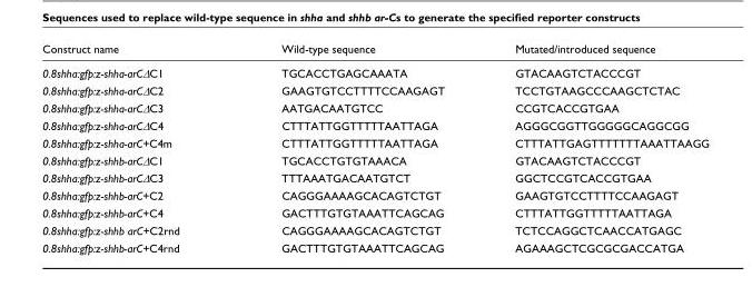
<table><thead><tr><td>Construct name</td><td>Wild-type sequence</td><td>Mutated/introduced sequence</td></tr></thead><tbody><tr><td>0.8shha:gfp:z-shha-arCΔC1</td><td>TGCACCTGAGCAAATA</td><td>GTACAAGTCTACCCGT</td></tr><tr><td>0.8shha:gfp:z-shha-arCΔC2</td><td>GAAGTGTCCTTTTCCAAGAGT</td><td>TCCTGTAAGCCCAAGCTCTAC</td></tr><tr><td>0.8shha:gfp:z-shha-arCΔC3</td><td>AATGACAATGTCC</td><td>CCGTCACCGTGAA</td></tr><tr><td>0.8shha:gfp:z-shha-arCΔC4</td><td>CTTTATTGGTTTTTAATTAGA</td><td>AGGGCGGTTGGGGGCAGGCGG</td></tr><tr><td>0.8shha:gfp:z-shha-arC+C4m</td><td>CTTTATTGGTTTTTAATTAGA</td><td>CTTTATTGAGTTTTTTTAAATTAAGG</td></tr><tr><td>0.8shha:gfp:z-shhb-arCΔC1</td><td>TGCACCTGTGTAAACA</td><td>GTACAAGTCTACCCGT</td></tr><tr><td>0.8shha:gfp:z-shhb-arCΔC3</td><td>TTTAAATGACAATGTCT</td><td>GGCTCCGTCACCGTGAA</td></tr><tr><td>0.8shha:gfp:z-shhb-arC+C2</td><td>CAGGGAAAAGCACAGTCTGT</td><td>GAAGTGTCCTTTTCCAAGAGT</td></tr><tr><td>0.8shha:gfp:z-shhb-arC+C4</td><td>GACTTTGTGTAAATTCAGCAG</td><td>CTTTATTGGTTTTTAATTAGA</td></tr><tr><td>0.8shha:gfp:z-shhb arC+C2rnd</td><td>CAGGGAAAAGCACAGTCTGT</td><td>TCTCCAGGCTCAACCATGAGC</td></tr><tr><td>0.8shha:gfp:z-shhb-arC+C4rnd</td><td>GACTTTGTGTAAATTCAGCAG</td><td>AGAAAGCTCGCGCGACCATGA</td></tr></tbody></table>